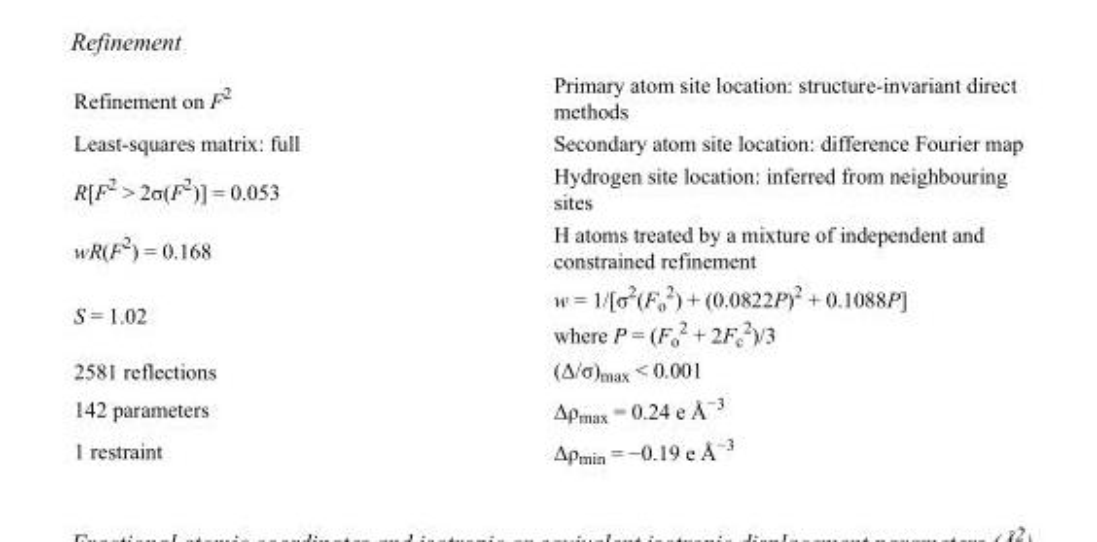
<table><tbody><tr><td>Refinement on F<sup>2</sup></td><td>Primary atom site location: structure-invariant direct methods</td></tr><tr><td>Least-squares matrix: full</td><td>Secondary atom site location: difference Fourier map</td></tr><tr><td>R[F<sup>2</sup> &gt; 2σ(F<sup>2</sup>)] = 0.053</td><td>Hydrogen site location: inferred from neighbouring sites</td></tr><tr><td>wR(F<sup>2</sup>) = 0.168</td><td>H atoms treated by a mixture of independent and constrained refinement</td></tr><tr><td>S = 1.02</td><td>w = 1/[σ<sup>2</sup>(F<sub>o</sub> <sup>2</sup>) + (0.0822P)<sup>2</sup> + 0.1088P] where P = (F<sub>o</sub> <sup>2</sup> + 2F<sub>c</sub> <sup>2</sup>)/3</td></tr><tr><td>2581 reflections</td><td>(Δ/σ)<sub>max</sub> &lt; 0.001</td></tr><tr><td>142 parameters</td><td>Δρ<sub>max</sub> = 0.24 e Å<sup>−3</sup></td></tr><tr><td>1 restraint</td><td>Δρ<sub>min</sub> = −0.19 e Å<sup>−3</sup></td></tr></tbody></table>